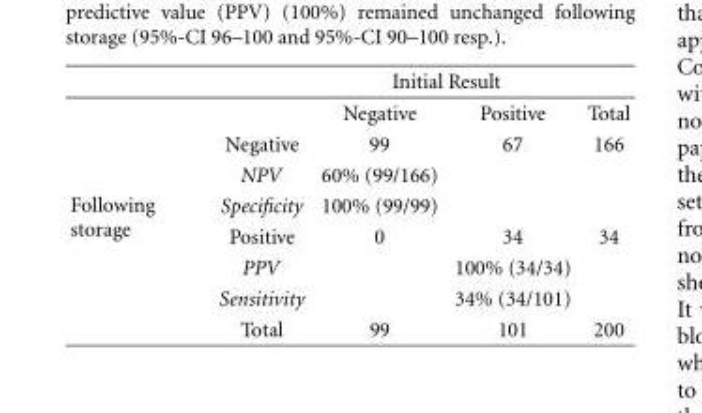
<table><thead><tr><td rowspan="2"></td><td rowspan="2"></td><td colspan="2">Initial Result</td><td rowspan="2">Total</td></tr><tr><td>Negative</td><td>Positive</td></tr></thead><tbody><tr><td rowspan="7">Following storage</td><td>Negative</td><td>99</td><td>67</td><td>166</td></tr><tr><td>NPV</td><td>60% (99/166)</td><td></td><td></td></tr><tr><td>Specificity</td><td>100% (99/99)</td><td></td><td></td></tr><tr><td>Positive</td><td>0</td><td>34</td><td>34</td></tr><tr><td>PPV</td><td></td><td>100% (34/34)</td><td></td></tr><tr><td>Sensitivity</td><td></td><td>34% (34/101)</td><td></td></tr><tr><td>Total</td><td>99</td><td>101</td><td>200</td></tr></tbody></table>